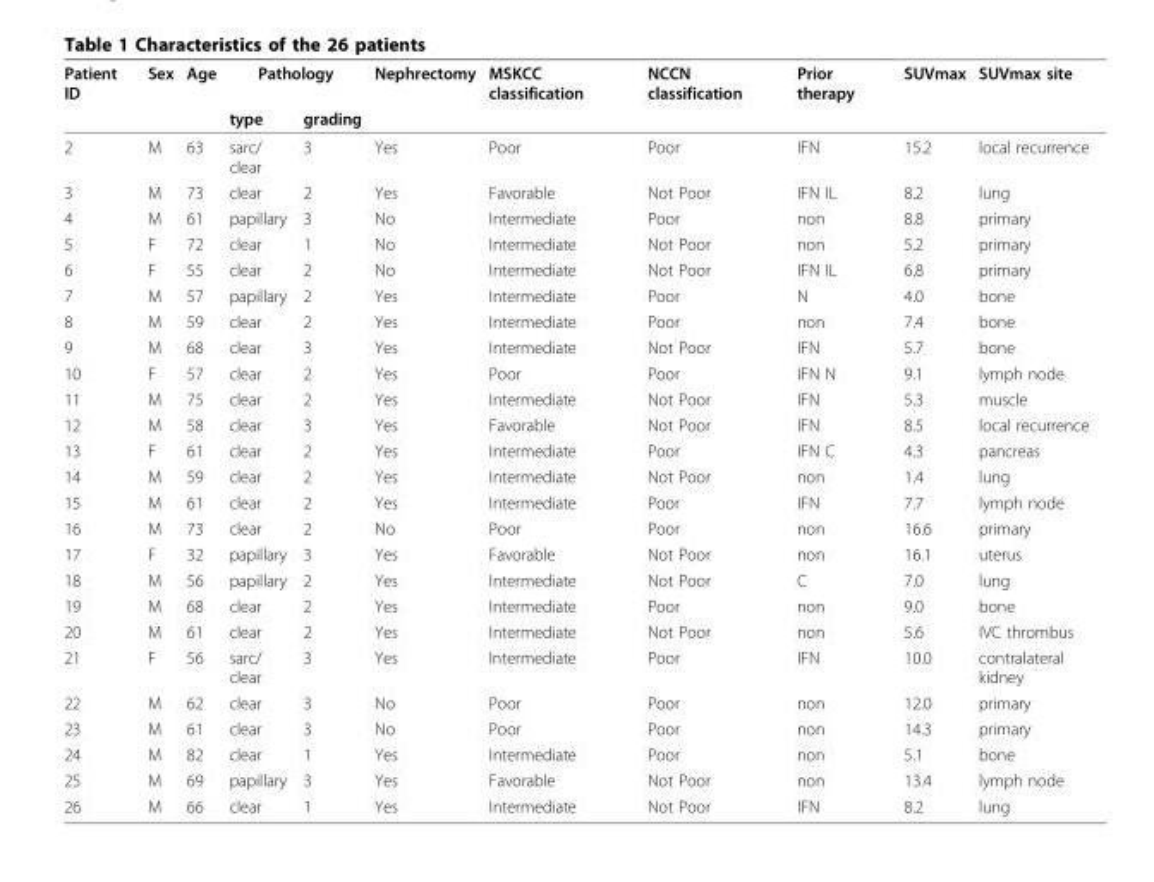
<table><thead><tr><td rowspan="2">Patient ID</td><td rowspan="2">Sex</td><td rowspan="2">Age</td><td colspan="2">Pathology</td><td rowspan="2">Nephrectomy</td><td rowspan="2">MSKCC classification</td><td rowspan="2">NCCN classification</td><td rowspan="2">Prior therapy</td><td rowspan="2">SUVmax</td><td rowspan="2">SUVmax site</td></tr><tr><td>type</td><td>grading</td></tr></thead><tbody><tr><td>2</td><td>M</td><td>63</td><td>sarc/ clear</td><td>3</td><td>Yes</td><td>Poor</td><td>Poor</td><td>IFN</td><td>15.2</td><td>local recurrence</td></tr><tr><td>3</td><td>M</td><td>73</td><td>clear</td><td>2</td><td>Yes</td><td>Favorable</td><td>Not Poor</td><td>IFN IL</td><td>8.2</td><td>lung</td></tr><tr><td>4</td><td>M</td><td>61</td><td>papillary</td><td>3</td><td>No</td><td>Intermediate</td><td>Poor</td><td>non</td><td>8.8</td><td>primary</td></tr><tr><td>5</td><td>F</td><td>72</td><td>clear</td><td>1</td><td>No</td><td>Intermediate</td><td>Not Poor</td><td>non</td><td>5.2</td><td>primary</td></tr><tr><td>6</td><td>F</td><td>55</td><td>clear</td><td>2</td><td>No</td><td>Intermediate</td><td>Not Poor</td><td>IFN IL</td><td>6.8</td><td>primary</td></tr><tr><td>7</td><td>M</td><td>57</td><td>papillary</td><td>2</td><td>Yes</td><td>Intermediate</td><td>Poor</td><td>N</td><td>4.0</td><td>bone</td></tr><tr><td>8</td><td>M</td><td>59</td><td>clear</td><td>2</td><td>Yes</td><td>Intermediate</td><td>Poor</td><td>non</td><td>7.4</td><td>bone</td></tr><tr><td>9</td><td>M</td><td>68</td><td>clear</td><td>3</td><td>Yes</td><td>Intermediate</td><td>Not Poor</td><td>IFN</td><td>5.7</td><td>bone</td></tr><tr><td>10</td><td>F</td><td>57</td><td>clear</td><td>2</td><td>Yes</td><td>Poor</td><td>Poor</td><td>IFN N</td><td>9.1</td><td>lymph node</td></tr><tr><td>11</td><td>M</td><td>75</td><td>clear</td><td>2</td><td>Yes</td><td>Intermediate</td><td>Not Poor</td><td>IFN</td><td>5.3</td><td>muscle</td></tr><tr><td>12</td><td>M</td><td>58</td><td>clear</td><td>3</td><td>Yes</td><td>Favorable</td><td>Not Poor</td><td>IFN</td><td>8.5</td><td>local recurrence</td></tr><tr><td>13</td><td>F</td><td>61</td><td>clear</td><td>2</td><td>Yes</td><td>Intermediate</td><td>Poor</td><td>IFN C</td><td>4.3</td><td>pancreas</td></tr><tr><td>14</td><td>M</td><td>59</td><td>clear</td><td>2</td><td>Yes</td><td>Intermediate</td><td>Not Poor</td><td>non</td><td>1.4</td><td>lung</td></tr><tr><td>15</td><td>M</td><td>61</td><td>clear</td><td>2</td><td>Yes</td><td>Intermediate</td><td>Poor</td><td>IFN</td><td>7.7</td><td>lymph node</td></tr><tr><td>16</td><td>M</td><td>73</td><td>clear</td><td>2</td><td>No</td><td>Poor</td><td>Poor</td><td>non</td><td>16.6</td><td>primary</td></tr><tr><td>17</td><td>F</td><td>32</td><td>papillary</td><td>3</td><td>Yes</td><td>Favorable</td><td>Not Poor</td><td>non</td><td>16.1</td><td>uterus</td></tr><tr><td>18</td><td>M</td><td>56</td><td>papillary</td><td>2</td><td>Yes</td><td>Intermediate</td><td>Not Poor</td><td>C</td><td>7.0</td><td>lung</td></tr><tr><td>19</td><td>M</td><td>68</td><td>clear</td><td>2</td><td>Yes</td><td>Intermediate</td><td>Poor</td><td>non</td><td>9.0</td><td>bone</td></tr><tr><td>20</td><td>M</td><td>61</td><td>clear</td><td>2</td><td>Yes</td><td>Intermediate</td><td>Not Poor</td><td>non</td><td>5.6</td><td>IVC thrombus</td></tr><tr><td>21</td><td>F</td><td>56</td><td>sarc/ clear</td><td>3</td><td>Yes</td><td>Intermediate</td><td>Poor</td><td>IFN</td><td>10.0</td><td>contralateral kidney</td></tr><tr><td>22</td><td>M</td><td>62</td><td>clear</td><td>3</td><td>No</td><td>Poor</td><td>Poor</td><td>non</td><td>12.0</td><td>primary</td></tr><tr><td>23</td><td>M</td><td>61</td><td>clear</td><td>3</td><td>No</td><td>Poor</td><td>Poor</td><td>non</td><td>14.3</td><td>primary</td></tr><tr><td>24</td><td>M</td><td>82</td><td>clear</td><td>1</td><td>Yes</td><td>Intermediate</td><td>Poor</td><td>non</td><td>5.1</td><td>bone</td></tr><tr><td>25</td><td>M</td><td>69</td><td>papillary</td><td>3</td><td>Yes</td><td>Favorable</td><td>Not Poor</td><td>non</td><td>13.4</td><td>lymph node</td></tr><tr><td>26</td><td>M</td><td>66</td><td>clear</td><td>1</td><td>Yes</td><td>Intermediate</td><td>Not Poor</td><td>IFN</td><td>8.2</td><td>lung</td></tr></tbody></table>